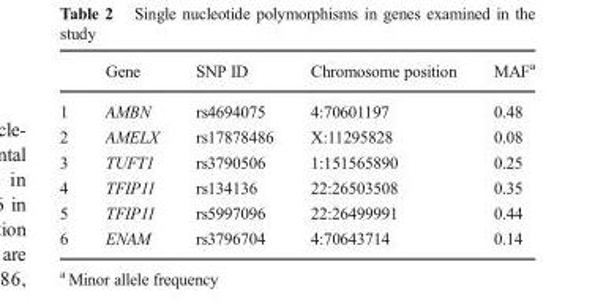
<table><thead><tr><td></td><td>Gene</td><td>SNP ID</td><td>Chromosome position</td><td>MAF<sup>a</sup></td></tr></thead><tbody><tr><td>1</td><td>AMBN</td><td>rs4694075</td><td>4:70601197</td><td>0.48</td></tr><tr><td>2</td><td>AMELX</td><td>rs17878486</td><td>X:11295828</td><td>0.08</td></tr><tr><td>3</td><td>TUFT1</td><td>rs3790506</td><td>1:151565890</td><td>0.25</td></tr><tr><td>4</td><td>TFIP11</td><td>rs134136</td><td>22:26503508</td><td>0.35</td></tr><tr><td>5</td><td>TFIP11</td><td>rs5997096</td><td>22:26499991</td><td>0.44</td></tr><tr><td>6</td><td>ENAM</td><td>rs3796704</td><td>4:70643714</td><td>0.14</td></tr></tbody></table>